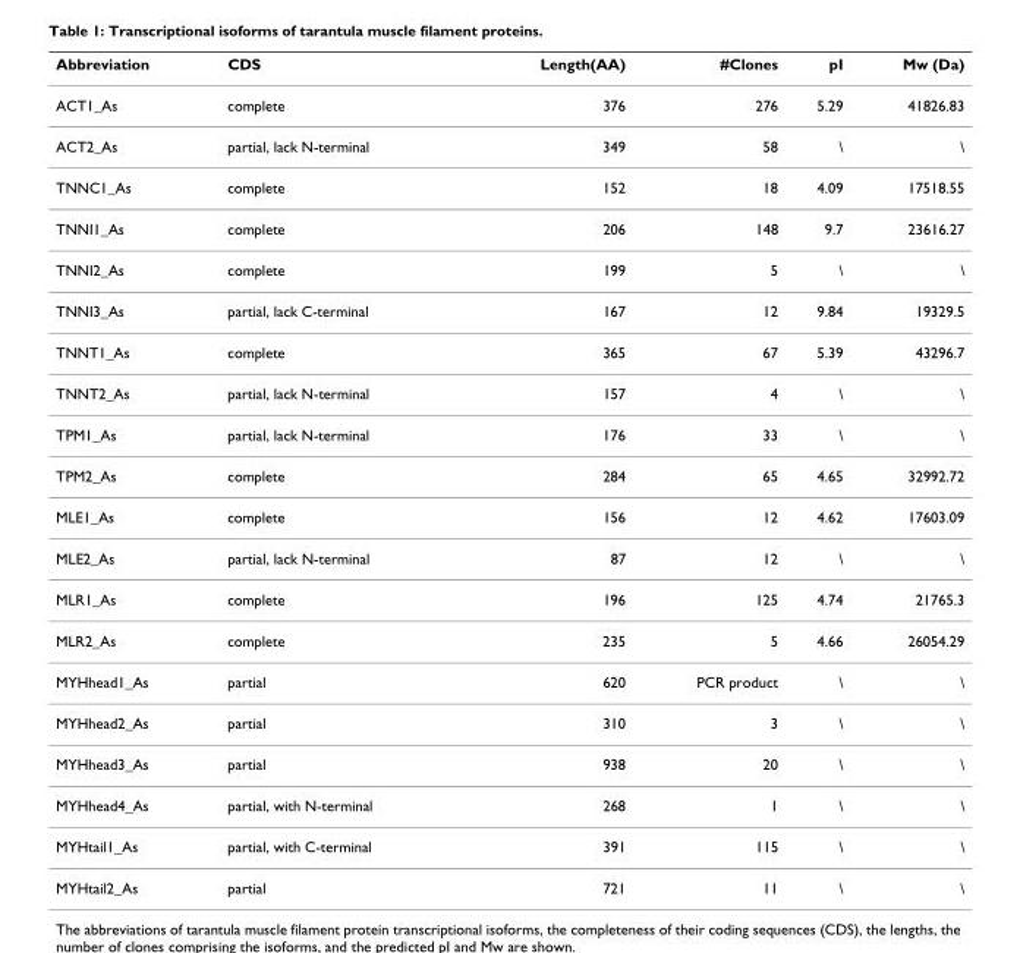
<table><thead><tr><td>Abbreviation</td><td>CDS</td><td>Length(AA)</td><td>#Clones</td><td>pI</td><td>Mw (Da)</td></tr></thead><tbody><tr><td>ACT1_As</td><td>complete</td><td>376</td><td>276</td><td>5.29</td><td>41826.83</td></tr><tr><td>ACT2_As</td><td>partial, lack N-terminal</td><td>349</td><td>58</td><td>\</td><td>\</td></tr><tr><td>TNNC1_As</td><td>complete</td><td>152</td><td>18</td><td>4.09</td><td>17518.55</td></tr><tr><td>TNNI1_As</td><td>complete</td><td>206</td><td>148</td><td>9.7</td><td>23616.27</td></tr><tr><td>TNNI2_As</td><td>complete</td><td>199</td><td>5</td><td>\</td><td>\</td></tr><tr><td>TNNI3_As</td><td>partial, lack C-terminal</td><td>167</td><td>12</td><td>9.84</td><td>19329.5</td></tr><tr><td>TNNT1_As</td><td>complete</td><td>365</td><td>67</td><td>5.39</td><td>43296.7</td></tr><tr><td>TNNT2_As</td><td>partial, lack N-terminal</td><td>157</td><td>4</td><td>\</td><td>\</td></tr><tr><td>TPM1_As</td><td>partial, lack N-terminal</td><td>176</td><td>33</td><td>\</td><td>\</td></tr><tr><td>TPM2_As</td><td>complete</td><td>284</td><td>65</td><td>4.65</td><td>32992.72</td></tr><tr><td>MLE1_As</td><td>complete</td><td>156</td><td>12</td><td>4.62</td><td>17603.09</td></tr><tr><td>MLE2_As</td><td>partial, lack N-terminal</td><td>87</td><td>12</td><td>\</td><td>\</td></tr><tr><td>MLR1_As</td><td>complete</td><td>196</td><td>125</td><td>4.74</td><td>21765.3</td></tr><tr><td>MLR2_As</td><td>complete</td><td>235</td><td>5</td><td>4.66</td><td>26054.29</td></tr><tr><td>MYHhead1_As</td><td>partial</td><td>620</td><td>PCR product</td><td>\</td><td>\</td></tr><tr><td>MYHhead2_As</td><td>partial</td><td>310</td><td>3</td><td>\</td><td>\</td></tr><tr><td>MYHhead3_As</td><td>partial</td><td>938</td><td>20</td><td>\</td><td>\</td></tr><tr><td>MYHhead4_As</td><td>partial, with N-terminal</td><td>268</td><td>1</td><td>\</td><td>\</td></tr><tr><td>MYHtail1_As</td><td>partial, with C-terminal</td><td>391</td><td>115</td><td>\</td><td>\</td></tr><tr><td>MYHtail2_As</td><td>partial</td><td>721</td><td>11</td><td>\</td><td>\</td></tr></tbody></table>